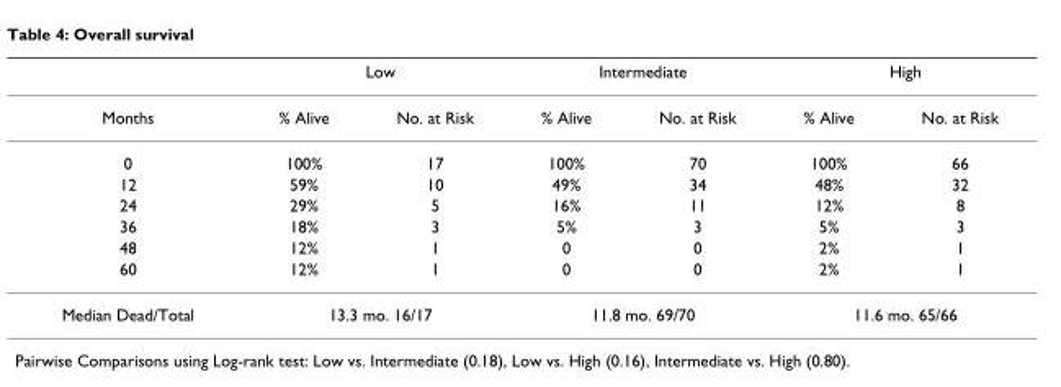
<table><thead><tr><td rowspan="2">Months</td><td colspan="2">Low</td><td colspan="2">Intermediate</td><td colspan="2">High</td></tr><tr><td>% Alive</td><td>No. at Risk</td><td>% Alive</td><td>No. at Risk</td><td>% Alive</td><td>No. at Risk</td></tr></thead><tbody><tr><td>0</td><td>100%</td><td>17</td><td>100%</td><td>70</td><td>100%</td><td>66</td></tr><tr><td>12</td><td>59%</td><td>10</td><td>49%</td><td>34</td><td>48%</td><td>32</td></tr><tr><td>24</td><td>29%</td><td>5</td><td>16%</td><td>11</td><td>12%</td><td>8</td></tr><tr><td>36</td><td>18%</td><td>3</td><td>5%</td><td>3</td><td>5%</td><td>3</td></tr><tr><td>48</td><td>12%</td><td>1</td><td>0</td><td>0</td><td>2%</td><td>1</td></tr><tr><td>60</td><td>12%</td><td>1</td><td>0</td><td>0</td><td>2%</td><td>1</td></tr><tr><td>Median Dead/Total</td><td colspan="2">13.3 mo. 16/17</td><td colspan="2">11.8 mo. 69/70</td><td colspan="2">11.6 mo. 65/66</td></tr></tbody></table>